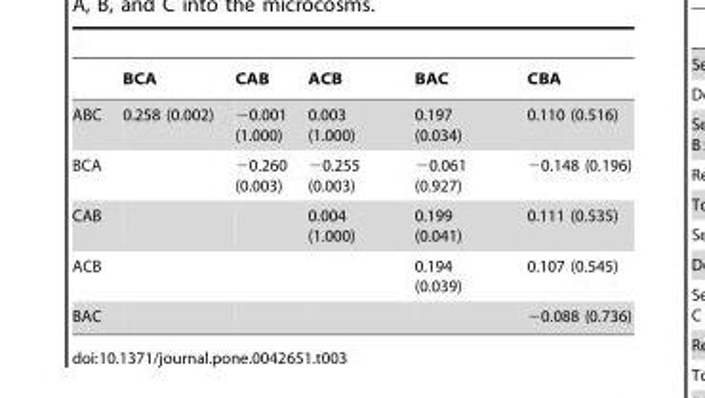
<table><thead><tr><td></td><td>BCA</td><td>CAB</td><td>ACB</td><td>BAC</td><td>CBA</td></tr></thead><tbody><tr><td>ABC</td><td>0.258 (0.002)</td><td>−0.001 (1.000)</td><td>0.003 (1.000)</td><td>0.197 (0.034)</td><td>0.110 (0.516)</td></tr><tr><td>BCA</td><td></td><td>−0.260 (0.003)</td><td>−0.255 (0.003)</td><td>−0.061 (0.927)</td><td>−0.148 (0.196)</td></tr><tr><td>CAB</td><td></td><td></td><td>0.004 (1.000)</td><td>0.199 (0.041)</td><td>0.111 (0.535)</td></tr><tr><td>ACB</td><td></td><td></td><td></td><td>0.194 (0.039)</td><td>0.107 (0.545)</td></tr><tr><td>BAC</td><td></td><td></td><td></td><td></td><td>−0.088 (0.736)</td></tr></tbody></table>